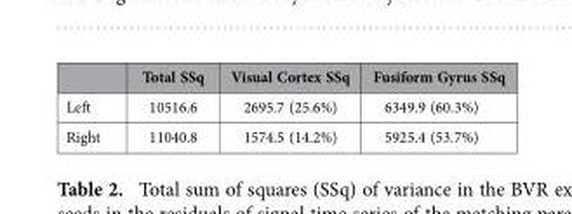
<table><thead><tr><td></td><td>Total SSq</td><td>Visual Cortex SSq</td><td>Fusiform Gyrus SSq</td></tr></thead><tbody><tr><td>Left</td><td>10516.6</td><td>2695.7 (25.6%)</td><td>6349.9 (60.3%)</td></tr><tr><td>Right</td><td>11040.8</td><td>1574.5 (14.2%)</td><td>5925.4 (53.7%)</td></tr></tbody></table>